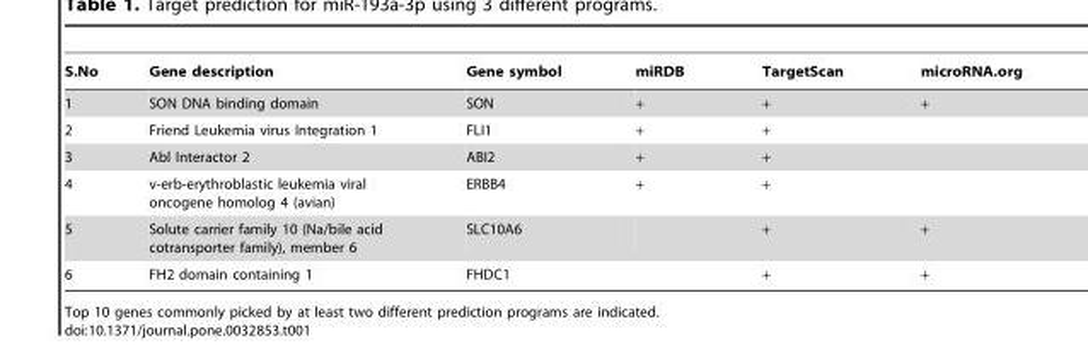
<table><thead><tr><td>S.No</td><td>Gene description</td><td>Gene symbol</td><td>miRDB</td><td>TargetScan</td><td>microRNA.org</td></tr></thead><tbody><tr><td>1</td><td>SON DNA binding domain</td><td>SON</td><td>+</td><td>+</td><td>+</td></tr><tr><td>2</td><td>Friend Leukemia virus Integration 1</td><td>FLI1</td><td>+</td><td>+</td><td></td></tr><tr><td>3</td><td>Abl Interactor 2</td><td>ABI2</td><td>+</td><td>+</td><td></td></tr><tr><td>4</td><td>v-erb-erythroblastic leukemia viral oncogene homolog 4 (avian)</td><td>ERBB4</td><td>+</td><td>+</td><td></td></tr><tr><td>5</td><td>Solute carrier family 10 (Na/bile acid cotransporter family), member 6</td><td>SLC10A6</td><td></td><td>+</td><td>+</td></tr><tr><td>6</td><td>FH2 domain containing 1</td><td>FHDC1</td><td></td><td>+</td><td>+</td></tr></tbody></table>